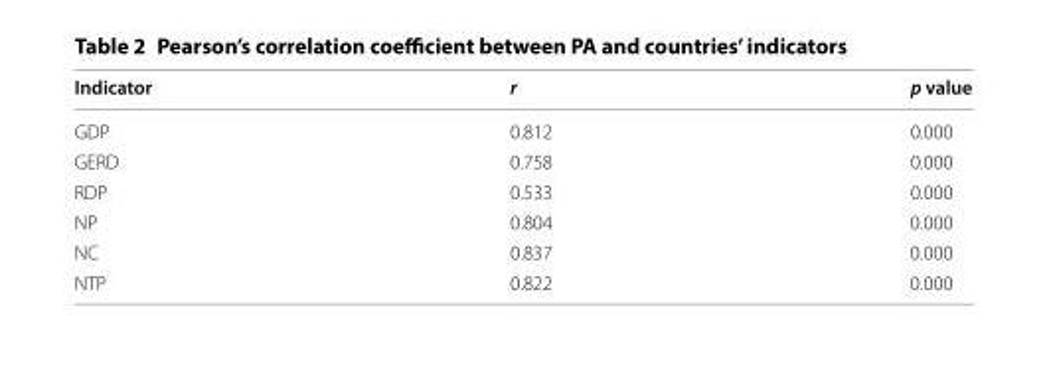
<table><thead><tr><td>Indicator</td><td>r</td><td>p value</td></tr></thead><tbody><tr><td>GDP</td><td>0.812</td><td>0.000</td></tr><tr><td>GERD</td><td>0.758</td><td>0.000</td></tr><tr><td>RDP</td><td>0.533</td><td>0.000</td></tr><tr><td>NP</td><td>0.804</td><td>0.000</td></tr><tr><td>NC</td><td>0.837</td><td>0.000</td></tr><tr><td>NTP</td><td>0.822</td><td>0.000</td></tr></tbody></table>